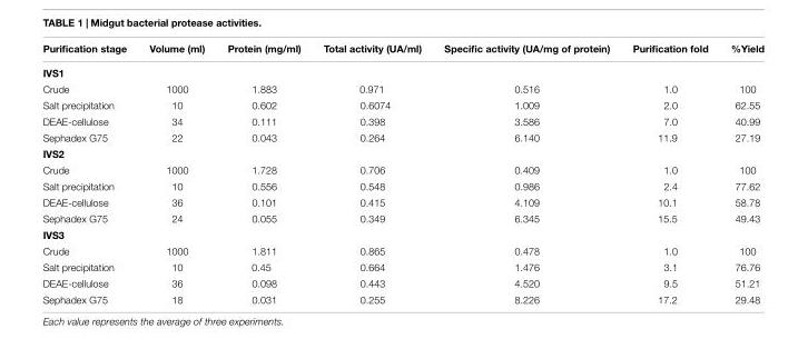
<table><thead><tr><td>Purification stage</td><td>Volume (ml)</td><td>Protein (mg/ml)</td><td>Total activity (UA/ml)</td><td>Specific activity (UA/mg of protein)</td><td>Purification fold</td><td>%Yield</td></tr></thead><tbody><tr><td colspan="7">IVS1</td></tr><tr><td>Crude</td><td>1000</td><td>1.883</td><td>0.971</td><td>0.516</td><td>1.0</td><td>100</td></tr><tr><td>Salt precipitation</td><td>10</td><td>0.602</td><td>0.6074</td><td>1.009</td><td>2.0</td><td>62.55</td></tr><tr><td>DEAE-cellulose</td><td>34</td><td>0.111</td><td>0.398</td><td>3.586</td><td>7.0</td><td>40.99</td></tr><tr><td>Sephadex G75</td><td>22</td><td>0.043</td><td>0.264</td><td>6.140</td><td>11.9</td><td>27.19</td></tr><tr><td colspan="7">IVS2</td></tr><tr><td>Crude</td><td>1000</td><td>1.728</td><td>0.706</td><td>0.409</td><td>1.0</td><td>100</td></tr><tr><td>Salt precipitation</td><td>10</td><td>0.556</td><td>0.548</td><td>0.986</td><td>2.4</td><td>77.62</td></tr><tr><td>DEAE-cellulose</td><td>36</td><td>0.101</td><td>0.415</td><td>4.109</td><td>10.1</td><td>58.78</td></tr><tr><td>Sephadex G75</td><td>24</td><td>0.055</td><td>0.349</td><td>6.345</td><td>15.5</td><td>49.43</td></tr><tr><td colspan="7">IVS3</td></tr><tr><td>Crude</td><td>1000</td><td>1.811</td><td>0.865</td><td>0.478</td><td>1.0</td><td>100</td></tr><tr><td>Salt precipitation</td><td>10</td><td>0.45</td><td>0.664</td><td>1.476</td><td>3.1</td><td>76.76</td></tr><tr><td>DEAE-cellulose</td><td>36</td><td>0.098</td><td>0.443</td><td>4.520</td><td>9.5</td><td>51.21</td></tr><tr><td>Sephadex G75</td><td>18</td><td>0.031</td><td>0.255</td><td>8.226</td><td>17.2</td><td>29.48</td></tr></tbody></table>